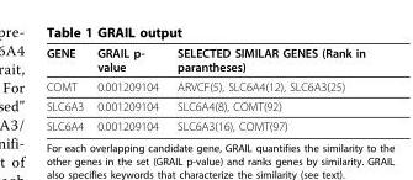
<table><thead><tr><td>GENE</td><td>GRAIL p- value</td><td>SELECTED SIMILAR GENES (Rank in parantheses)</td></tr></thead><tbody><tr><td>COMT</td><td>0.001209104</td><td>ARVCF(5), SLC6A4(12), SLC6A3(25)</td></tr><tr><td>SLC6A3</td><td>0.001209104</td><td>SLC6A4(8), COMT(92)</td></tr><tr><td>SLC6A4</td><td>0.001209104</td><td>SLC6A3(16), COMT(97)</td></tr></tbody></table>